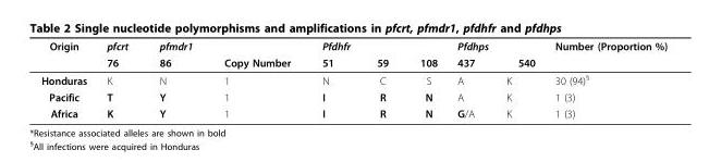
<table><thead><tr><td rowspan="2">Origin</td><td rowspan="2">pfcrt 76</td><td rowspan="2">pfmdr1 86</td><td rowspan="2">Copy Number</td><td colspan="3">Pfdhfr</td><td colspan="2">Pfdhps</td><td rowspan="2">Number (Proportion %)</td></tr><tr><td>51</td><td>59</td><td>108</td><td>437</td><td>540</td></tr></thead><tbody><tr><td>Honduras</td><td>K</td><td>N</td><td>1</td><td>N</td><td>C</td><td>S</td><td>A</td><td>K</td><td>30 (94)<sup>§</sup></td></tr><tr><td>Pacific</td><td>T</td><td>Y</td><td>1</td><td>I</td><td>R</td><td>N</td><td>A</td><td>K</td><td>1 (3)</td></tr><tr><td>Africa</td><td>K</td><td>Y</td><td>1</td><td>I</td><td>R</td><td>N</td><td>G/A</td><td>K</td><td>1 (3)</td></tr></tbody></table>